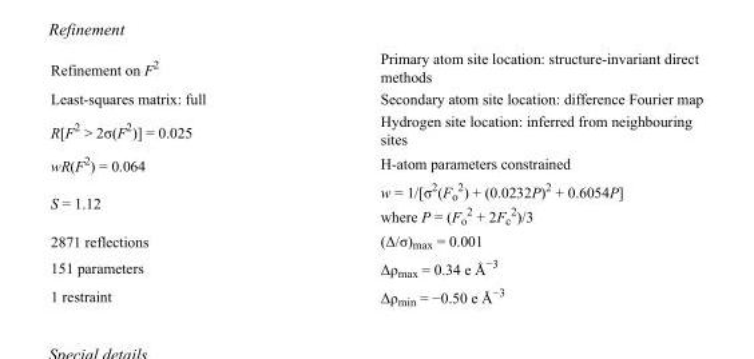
<table><tbody><tr><td>Refinement on F<sup>2</sup></td><td>Primary atom site location: structure-invariant direct methods</td></tr><tr><td>Least-squares matrix: full</td><td>Secondary atom site location: difference Fourier map</td></tr><tr><td>R[F<sup>2</sup> &gt; 2σ(F<sup>2</sup>)] = 0.025</td><td>Hydrogen site location: inferred from neighbouring sites</td></tr><tr><td>wR(F<sup>2</sup>) = 0.064</td><td>H-atom parameters constrained</td></tr><tr><td>S = 1.12</td><td>w = 1/[σ<sup>2</sup>(F<sub>o</sub> <sup>2</sup>) + (0.0232P)<sup>2</sup> + 0.6054P] where P = (F<sub>o</sub> <sup>2</sup> + 2F<sub>c</sub> <sup>2</sup>)/3</td></tr><tr><td>2871 reflections</td><td>(Δ/σ)<sub>max</sub> = 0.001</td></tr><tr><td>151 parameters</td><td>Δρ<sub>max</sub> = 0.34 e Å<sup>−3</sup></td></tr><tr><td>1 restraint</td><td>Δρ<sub>min</sub> = −0.50 e Å<sup>−3</sup></td></tr></tbody></table>